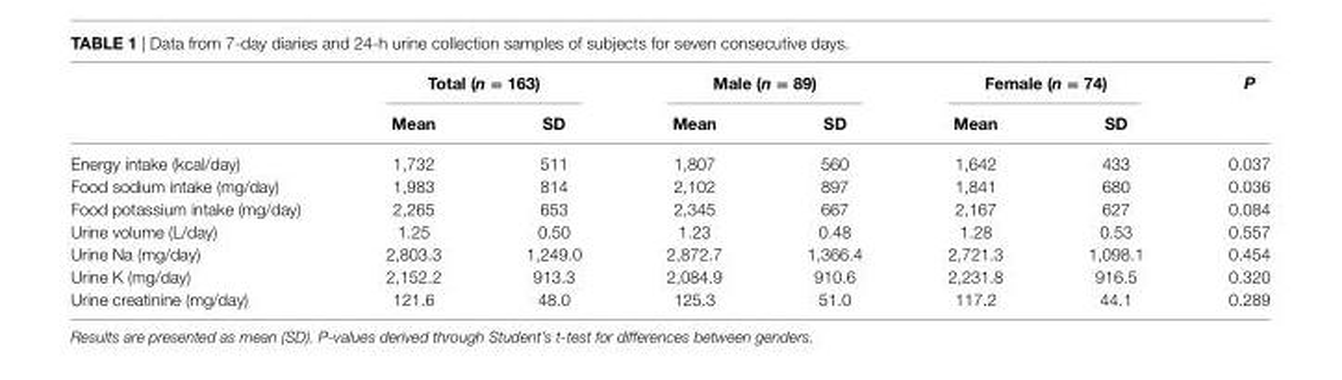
<table><thead><tr><td rowspan="2"></td><td colspan="2">Total (n = 163)</td><td colspan="2">Male (n = 89)</td><td colspan="2">Female (n = 74)</td><td rowspan="2">P</td></tr><tr><td>Mean</td><td>sD</td><td>Mean</td><td>sD</td><td>Mean</td><td>sD</td></tr></thead><tbody><tr><td>Energy intake (kcal/day)</td><td>1,732</td><td>511</td><td>1,807</td><td>560</td><td>1,642</td><td>433</td><td>0.037</td></tr><tr><td>Food sodium intake (mg/day)</td><td>1,983</td><td>814</td><td>2,102</td><td>897</td><td>1,841</td><td>680</td><td>0.036</td></tr><tr><td>Food potassium intake (mg/day)</td><td>2,265</td><td>653</td><td>2,345</td><td>667</td><td>2,167</td><td>627</td><td>0.084</td></tr><tr><td>Urine volume (L/day)</td><td>1.25</td><td>0.50</td><td>1.23</td><td>0.48</td><td>1.28</td><td>0.53</td><td>0.557</td></tr><tr><td>Urine Na (mg/day)</td><td>2,803.3</td><td>1,249.0</td><td>2,872.7</td><td>1,366.4</td><td>2,721.3</td><td>1,098.1</td><td>0.454</td></tr><tr><td>Urine K (mg/day)</td><td>2,152.2</td><td>913.3</td><td>2,084.9</td><td>910.6</td><td>2,231.8</td><td>916.5</td><td>0.320</td></tr><tr><td>Urine creatinine (mg/day)</td><td>121.6</td><td>48.0</td><td>125.3</td><td>51.0</td><td>117.2</td><td>44.1</td><td>0.289</td></tr></tbody></table>